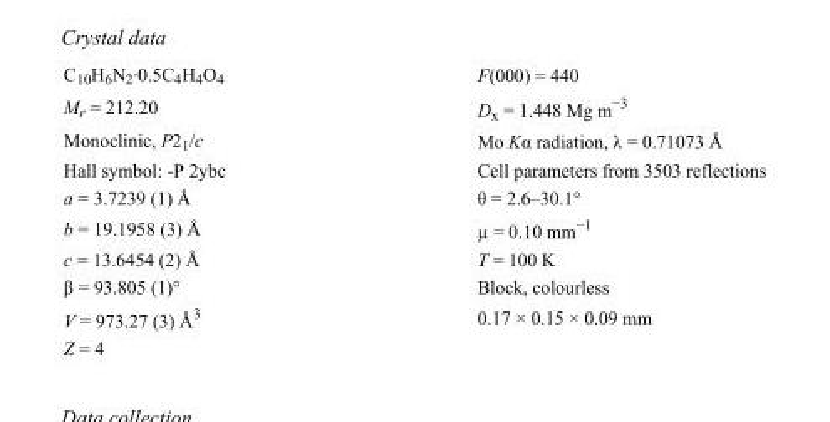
<table><tbody><tr><td>C<sub>10</sub>H<sub>6</sub>N<sub>2</sub>·0.5C<sub>4</sub>H<sub>4</sub>O<sub>4</sub></td><td>F(000) = 440</td></tr><tr><td>M<sub>r</sub> = 212.20</td><td>D<sub>x</sub> = 1.448 Mg m<sup>−3</sup></td></tr><tr><td>Monoclinic, P2<sub>1</sub>/c</td><td>Mo Kα radiation, λ = 0.71073 Å</td></tr><tr><td>Hall symbol: -P 2ybc</td><td>Cell parameters from 3503 reflections</td></tr><tr><td>a = 3.7239 (1) Å</td><td>θ = 2.6–30.1°</td></tr><tr><td>b = 19.1958 (3) Å</td><td>µ = 0.10 mm<sup>−1</sup></td></tr><tr><td>c = 13.6454 (2) Å</td><td>T = 100 K</td></tr><tr><td>β = 93.805 (1)°</td><td>Block, colourless</td></tr><tr><td>V = 973.27 (3) Å<sup>3</sup></td><td>0.17 × 0.15 × 0.09 mm</td></tr><tr><td>Z = 4</td><td></td></tr></tbody></table>